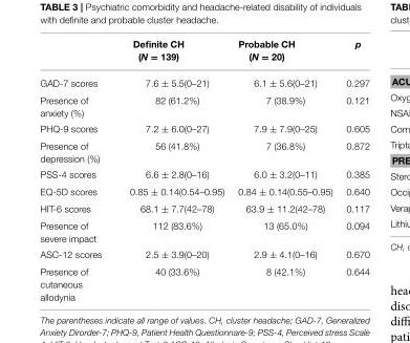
<table><thead><tr><td></td><td>Definite CH (N = 139)</td><td>Probable CH (N = 20)</td><td>p</td></tr></thead><tbody><tr><td>GAD-7 scores</td><td>7.6 ± 5.5(0–21)</td><td>6.1 ± 5.6(0–21)</td><td>0.297</td></tr><tr><td>Presence of anxiety (%)</td><td>82 (61.2%)</td><td>7 (38.9%)</td><td>0.121</td></tr><tr><td>PHQ-9 scores</td><td>7.2 ± 6.0(0–27)</td><td>7.9 ± 7.9(0–25)</td><td>0.605</td></tr><tr><td>Presence of depression (%)</td><td>56 (41.8%)</td><td>7 (36.8%)</td><td>0.872</td></tr><tr><td>PSS-4 scores</td><td>6.6 ± 2.8(0–16)</td><td>6.0 ± 3.2(0–11)</td><td>0.385</td></tr><tr><td>EQ-5D scores</td><td>0.85 ± 0.14(0.54–0.95)</td><td>0.84 ± 0.14(0.55–0.95)</td><td>0.640</td></tr><tr><td>HIT-6 scores</td><td>68.1 ± 7.7(42–78)</td><td>63.9 ± 11.2(42–78)</td><td>0.117</td></tr><tr><td>Presence of severe impact</td><td>112 (83.6%)</td><td>13 (65.0%)</td><td>0.094</td></tr><tr><td>ASC-12 scores</td><td>2.5 ± 3.9(0–20)</td><td>2.9 ± 4.1(0–16)</td><td>0.670</td></tr><tr><td>Presence of cutaneous allodynia</td><td>40 (33.6%)</td><td>8 (42.1%)</td><td>0.644</td></tr></tbody></table>